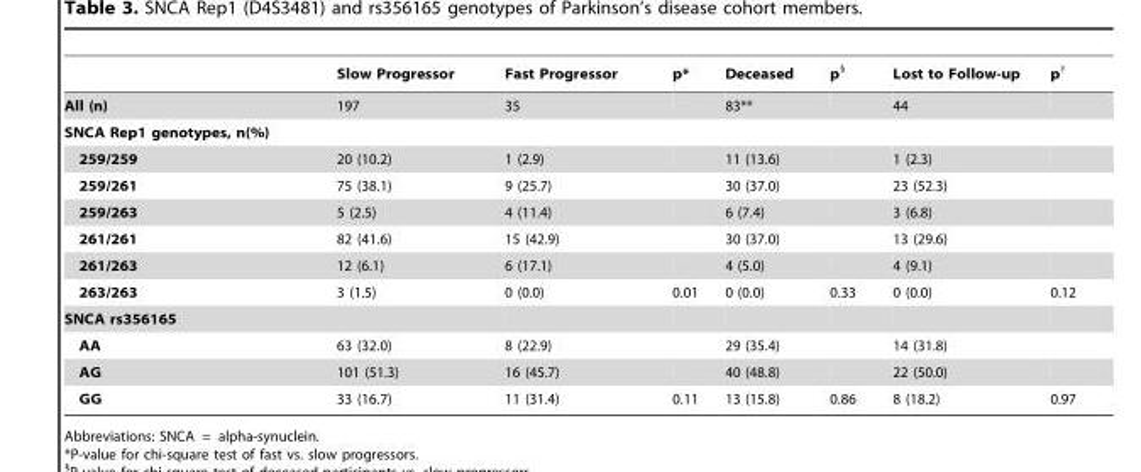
<table><thead><tr><td></td><td>Slow Progressor</td><td>Fast Progressor</td><td>p*</td><td>Deceased</td><td>p§</td><td>Lost to Follow-up</td><td>p†</td></tr></thead><tbody><tr><td>All (n)</td><td>197</td><td>35</td><td></td><td>83**</td><td></td><td>44</td><td></td></tr><tr><td colspan="8">SNCA Rep1 genotypes, n(%)</td></tr><tr><td>259/259</td><td>20 (10.2)</td><td>1 (2.9)</td><td></td><td>11 (13.6)</td><td></td><td>1 (2.3)</td><td></td></tr><tr><td>259/261</td><td>75 (38.1)</td><td>9 (25.7)</td><td></td><td>30 (37.0)</td><td></td><td>23 (52.3)</td><td></td></tr><tr><td>259/263</td><td>5 (2.5)</td><td>4 (11.4)</td><td></td><td>6 (7.4)</td><td></td><td>3 (6.8)</td><td></td></tr><tr><td>261/261</td><td>82 (41.6)</td><td>15 (42.9)</td><td></td><td>30 (37.0)</td><td></td><td>13 (29.6)</td><td></td></tr><tr><td>261/263</td><td>12 (6.1)</td><td>6 (17.1)</td><td></td><td>4 (5.0)</td><td></td><td>4 (9.1)</td><td></td></tr><tr><td>263/263</td><td>3 (1.5)</td><td>0 (0.0)</td><td>0.01</td><td>0 (0.0)</td><td>0.33</td><td>0 (0.0)</td><td>0.12</td></tr><tr><td colspan="8">SNCA rs356165</td></tr><tr><td>AA</td><td>63 (32.0)</td><td>8 (22.9)</td><td></td><td>29 (35.4)</td><td></td><td>14 (31.8)</td><td></td></tr><tr><td>AG</td><td>101 (51.3)</td><td>16 (45.7)</td><td></td><td>40 (48.8)</td><td></td><td>22 (50.0)</td><td></td></tr><tr><td>GG</td><td>33 (16.7)</td><td>11 (31.4)</td><td>0.11</td><td>13 (15.8)</td><td>0.86</td><td>8 (18.2)</td><td>0.97</td></tr></tbody></table>